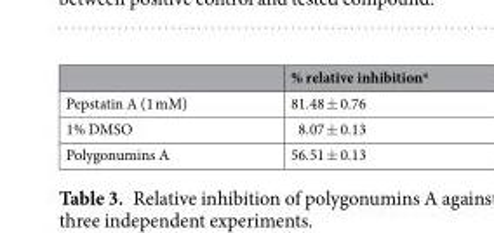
<table><thead><tr><td></td><td>% relative inhibition<sup>a</sup></td></tr></thead><tbody><tr><td>Pepstatin A (1 mM)</td><td>81.48 ± 0.76</td></tr><tr><td>1% DMSO</td><td>8.07 ± 0.13</td></tr><tr><td>Polygonumins A</td><td>56.51 ± 0.13</td></tr></tbody></table>